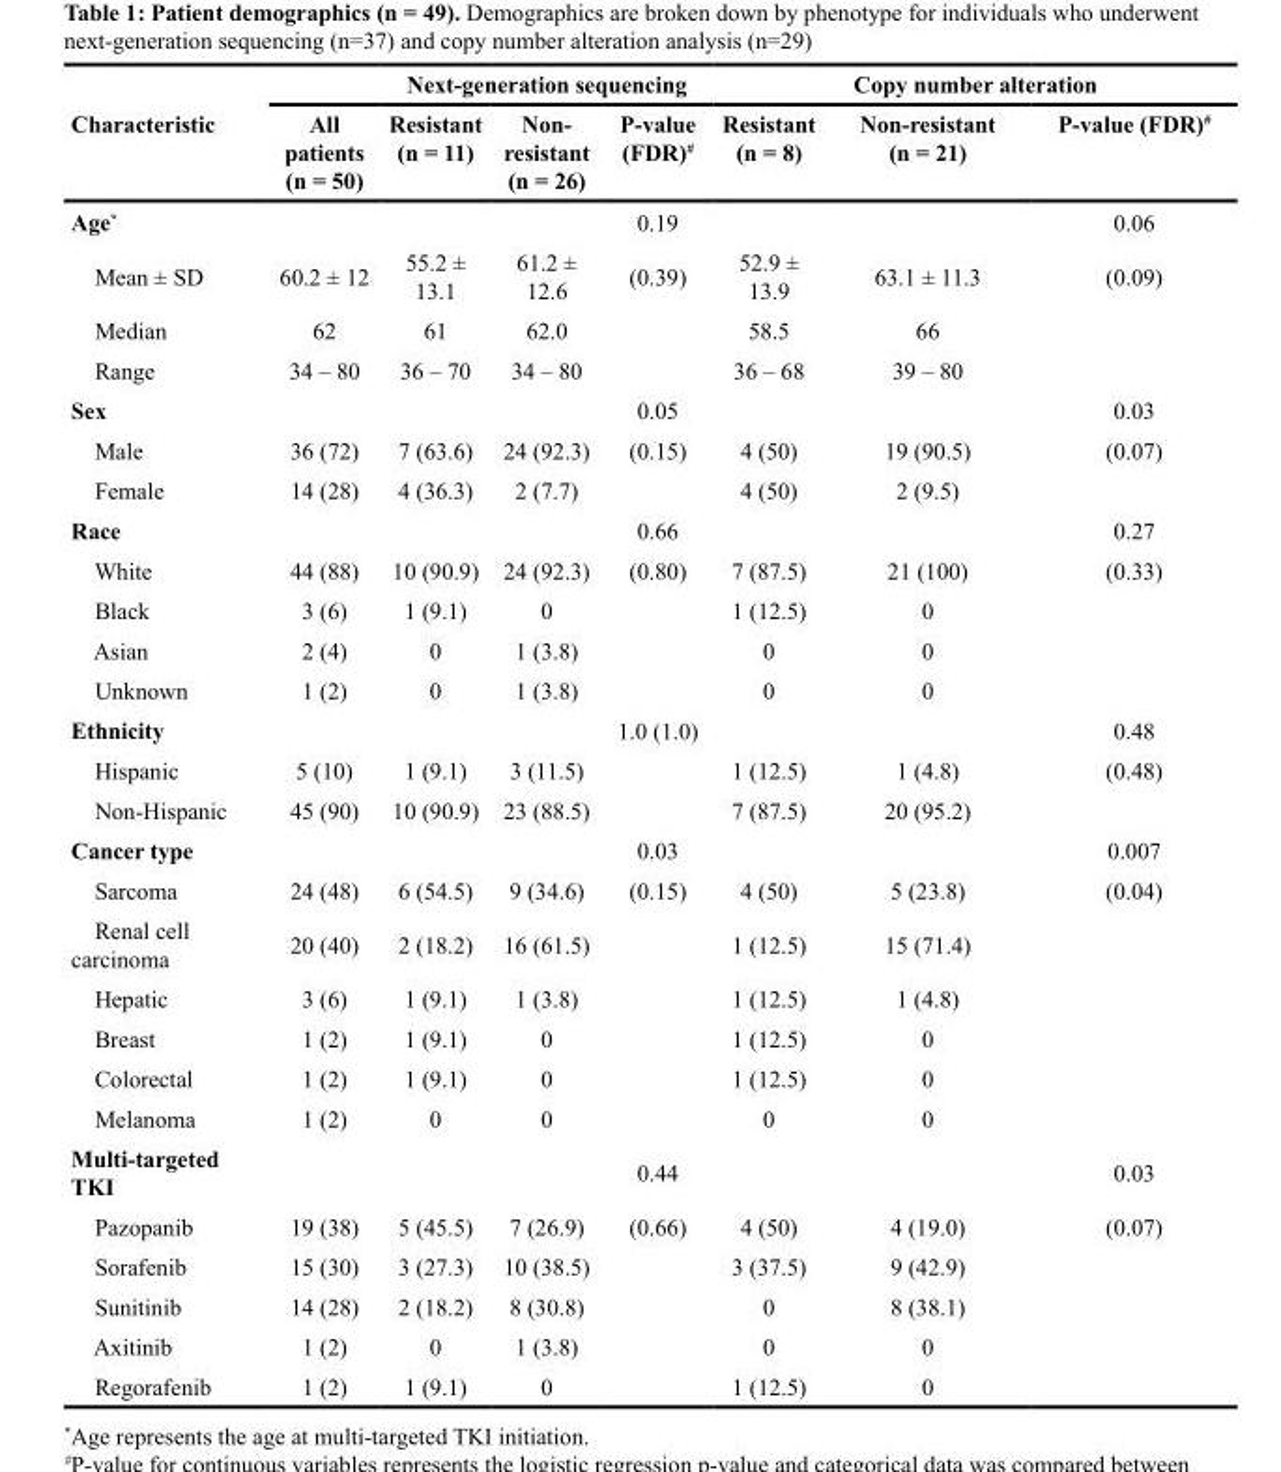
<table><thead><tr><td rowspan="2">Characteristic</td><td rowspan="2">All patients (n = 50)</td><td colspan="3">Next-generation sequencing</td><td colspan="3">Copy number alteration</td></tr><tr><td>Resistant (n = 11)</td><td>Non- resistant (n = 26)</td><td>P-value (FDR)<sup>#</sup></td><td>Resistant (n = 8)</td><td>Non-resistant (n = 21)</td><td>P-value (FDR)<sup>#</sup></td></tr></thead><tbody><tr><td>Age*</td><td></td><td></td><td></td><td>0.19</td><td></td><td></td><td>0.06</td></tr><tr><td>Mean ± SD</td><td>60.2 ± 12</td><td>55.2 ± 13.1</td><td>61.2 ± 12.6</td><td>(0.39)</td><td>52.9 ± 13.9</td><td>63.1 ± 11.3</td><td>(0.09)</td></tr><tr><td>Median</td><td>62</td><td>61</td><td>62.0</td><td></td><td>58.5</td><td>66</td><td></td></tr><tr><td>Range</td><td>34 – 80</td><td>36 – 70</td><td>34 – 80</td><td></td><td>36 – 68</td><td>39 – 80</td><td></td></tr><tr><td>Sex</td><td></td><td></td><td></td><td>0.05</td><td></td><td></td><td>0.03</td></tr><tr><td>Male</td><td>36 (72)</td><td>7 (63.6)</td><td>24 (92.3)</td><td>(0.15)</td><td>4 (50)</td><td>19 (90.5)</td><td>(0.07)</td></tr><tr><td>Female</td><td>14 (28)</td><td>4 (36.3)</td><td>2 (7.7)</td><td></td><td>4 (50)</td><td>2 (9.5)</td><td></td></tr><tr><td>Race</td><td></td><td></td><td></td><td>0.66</td><td></td><td></td><td>0.27</td></tr><tr><td>White</td><td>44 (88)</td><td>10 (90.9)</td><td>24 (92.3)</td><td>(0.80)</td><td>7 (87.5)</td><td>21 (100)</td><td>(0.33)</td></tr><tr><td>Black</td><td>3 (6)</td><td>1 (9.1)</td><td>0</td><td></td><td>1 (12.5)</td><td>0</td><td></td></tr><tr><td>Asian</td><td>2 (4)</td><td>0</td><td>1 (3.8)</td><td></td><td>0</td><td>0</td><td></td></tr><tr><td>Unknown</td><td>1 (2)</td><td>0</td><td>1 (3.8)</td><td></td><td>0</td><td>0</td><td></td></tr><tr><td>Ethnicity</td><td></td><td></td><td></td><td>1.0 (1.0)</td><td></td><td></td><td>0.48</td></tr><tr><td>Hispanic</td><td>5 (10)</td><td>1 (9.1)</td><td>3 (11.5)</td><td></td><td>1 (12.5)</td><td>1 (4.8)</td><td>(0.48)</td></tr><tr><td>Non-Hispanic</td><td>45 (90)</td><td>10 (90.9)</td><td>23 (88.5)</td><td></td><td>7 (87.5)</td><td>20 (95.2)</td><td></td></tr><tr><td>Cancer type</td><td></td><td></td><td></td><td>0.03</td><td></td><td></td><td>0.007</td></tr><tr><td>Sarcoma</td><td>24 (48)</td><td>6 (54.5)</td><td>9 (34.6)</td><td>(0.15)</td><td>4 (50)</td><td>5 (23.8)</td><td>(0.04)</td></tr><tr><td>Renal cell carcinoma</td><td>20 (40)</td><td>2 (18.2)</td><td>16 (61.5)</td><td></td><td>1 (12.5)</td><td>15 (71.4)</td><td></td></tr><tr><td>Hepatic</td><td>3 (6)</td><td>1 (9.1)</td><td>1 (3.8)</td><td></td><td>1 (12.5)</td><td>1 (4.8)</td><td></td></tr><tr><td>Breast</td><td>1 (2)</td><td>1 (9.1)</td><td>0</td><td></td><td>1 (12.5)</td><td>0</td><td></td></tr><tr><td>Colorectal</td><td>1 (2)</td><td>1 (9.1)</td><td>0</td><td></td><td>1 (12.5)</td><td>0</td><td></td></tr><tr><td>Melanoma</td><td>1 (2)</td><td>0</td><td>0</td><td></td><td>0</td><td>0</td><td></td></tr><tr><td>Multi-targeted TKI</td><td></td><td></td><td></td><td>0.44</td><td></td><td></td><td>0.03</td></tr><tr><td>Pazopanib</td><td>19 (38)</td><td>5 (45.5)</td><td>7 (26.9)</td><td>(0.66)</td><td>4 (50)</td><td>4 (19.0)</td><td>(0.07)</td></tr><tr><td>Sorafenib</td><td>15 (30)</td><td>3 (27.3)</td><td>10 (38.5)</td><td></td><td>3 (37.5)</td><td>9 (42.9)</td><td></td></tr><tr><td>Sunitinib</td><td>14 (28)</td><td>2 (18.2)</td><td>8 (30.8)</td><td></td><td>0</td><td>8 (38.1)</td><td></td></tr><tr><td>Axitinib</td><td>1 (2)</td><td>0</td><td>1 (3.8)</td><td></td><td>0</td><td>0</td><td></td></tr><tr><td>Regorafenib</td><td>1 (2)</td><td>1 (9.1)</td><td>0</td><td></td><td>1 (12.5)</td><td>0</td><td></td></tr></tbody></table>